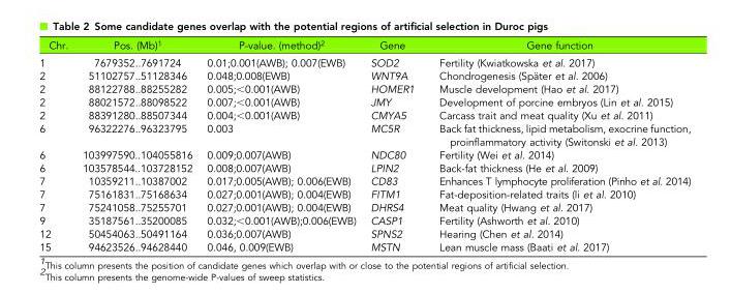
<table><thead><tr><td>Chr.</td><td>Pos. (Mb)<sup>1</sup></td><td>P-value. (method)<sup>2</sup></td><td>Gene</td><td>Gene function</td></tr></thead><tbody><tr><td>1</td><td>7679352..7691724</td><td>0.01;0.001(AWB); 0.007(EWB)</td><td>SOD2</td><td>Fertility (Kwiatkowska et al. 2017)</td></tr><tr><td>2</td><td>51102757..51128346</td><td>0.048;0.008(EWB)</td><td>WNT9A</td><td>Chondrogenesis (Später et al. 2006)</td></tr><tr><td>2</td><td>88122788..88255282</td><td>0.005;&lt;0.001(AWB)</td><td>HOMER1</td><td>Muscle development (Hao et al. 2017)</td></tr><tr><td>2</td><td>88021572..88098522</td><td>0.007;&lt;0.001(AWB)</td><td>JMY</td><td>Development of porcine embryos (Lin et al. 2015)</td></tr><tr><td>2</td><td>88391280..88507344</td><td>0.004;&lt;0.001(AWB)</td><td>CMYA5</td><td>Carcass trait and meat quality (Xu et al. 2011)</td></tr><tr><td>6</td><td>96322276..96323795</td><td>0.003</td><td>MC5R</td><td>Back fat thickness, lipid metabolism, exocrine function, proinflammatory activity (Switonski et al. 2013)</td></tr><tr><td>6</td><td>103997590..104055816</td><td>0.009;0.007(AWB)</td><td>NDC80</td><td>Fertility (Wei et al. 2014)</td></tr><tr><td>6</td><td>103578544..103728152</td><td>0.008;0.007(AWB)</td><td>LPIN2</td><td>Back-fat thickness (He et al. 2009)</td></tr><tr><td>7</td><td>10359211..10387002</td><td>0.017;0.005(AWB); 0.006(EWB)</td><td>CD83</td><td>Enhances T lymphocyte proliferation (Pinho et al. 2014)</td></tr><tr><td>7</td><td>75161831..75168634</td><td>0.027;0.001(AWB); 0.004(EWB)</td><td>FITM1</td><td>Fat-deposition-related traits (li et al. 2010)</td></tr><tr><td>7</td><td>75241058..75255701</td><td>0.027;0.001(AWB); 0.004(EWB)</td><td>DHRS4</td><td>Meat quality (Hwang et al. 2017)</td></tr><tr><td>9</td><td>35187561..35200085</td><td>0.032;&lt;0.001(AWB);0.006(EWB)</td><td>CASP1</td><td>Fertility (Ashworth et al. 2010)</td></tr><tr><td>12</td><td>50454063..50491164</td><td>0.036;0.007(AWB)</td><td>SPNS2</td><td>Hearing (Chen et al. 2014)</td></tr><tr><td>15</td><td>94623526..94628440</td><td>0.046, 0.009(EWB)</td><td>MSTN</td><td>Lean muscle mass (Baati et al. 2017)</td></tr></tbody></table>